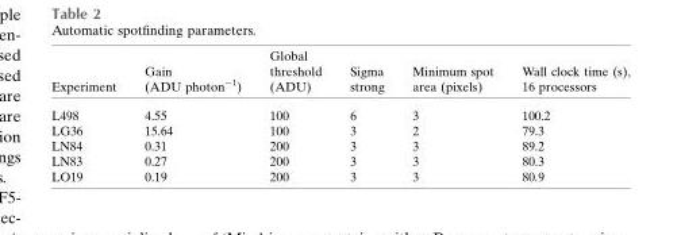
<table><thead><tr><td>Experiment</td><td>Gain (ADU photon<sup>−1</sup>)</td><td>Global threshold (ADU)</td><td>Sigma strong</td><td>Minimum spot area (pixels)</td><td>Wall clock time (s), 16 processors</td></tr></thead><tbody><tr><td>L498</td><td>4.55</td><td>100</td><td>6</td><td>3</td><td>100.2</td></tr><tr><td>LG36</td><td>15.64</td><td>100</td><td>3</td><td>2</td><td>79.3</td></tr><tr><td>LN84</td><td>0.31</td><td>200</td><td>3</td><td>3</td><td>89.2</td></tr><tr><td>LN83</td><td>0.27</td><td>200</td><td>3</td><td>3</td><td>80.3</td></tr><tr><td>LO19</td><td>0.19</td><td>200</td><td>3</td><td>3</td><td>80.9</td></tr></tbody></table>